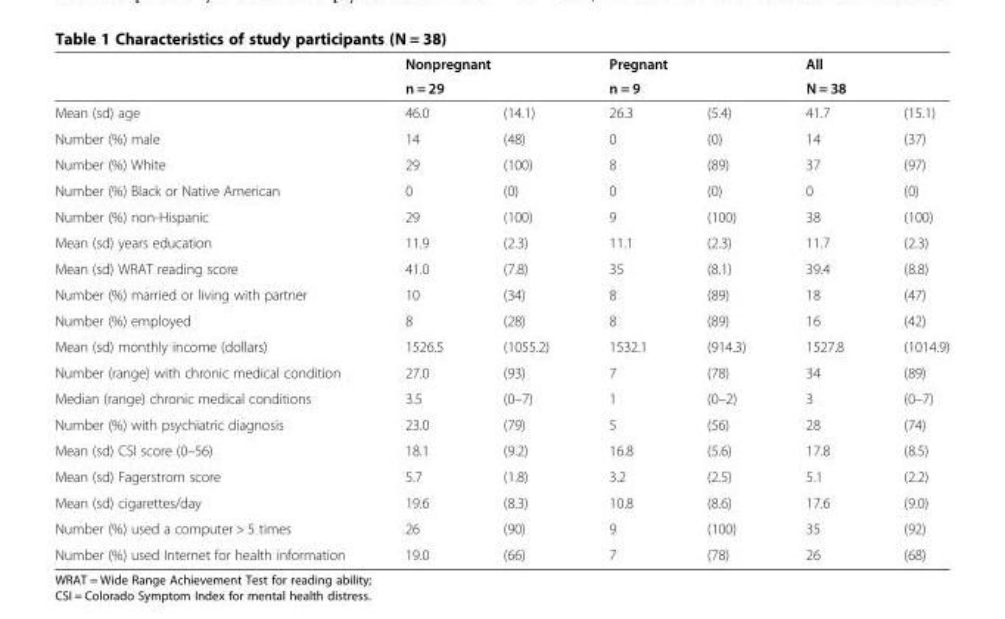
<table><thead><tr><td rowspan="3">Mean (sd) age</td><td rowspan="2" colspan="2">Nonpregnant n = 29</td><td rowspan="2" colspan="2">Pregnant n = 9</td><td>All</td><td></td></tr><tr><td colspan="2">N = 38</td></tr><tr><td>46.0</td><td>(14.1)</td><td>26.3</td><td>(5.4)</td><td>41.7</td><td>(15.1)</td></tr></thead><tbody><tr><td>Number (%) male</td><td>14</td><td>(48)</td><td>0</td><td>(0)</td><td>14</td><td>(37)</td></tr><tr><td>Number (%) White</td><td>29</td><td>(100)</td><td>8</td><td>(89)</td><td>37</td><td>(97)</td></tr><tr><td>Number (%) Black or Native American</td><td>0</td><td>(0)</td><td>0</td><td>(0)</td><td>0</td><td>(0)</td></tr><tr><td>Number (%) non-Hispanic</td><td>29</td><td>(100)</td><td>9</td><td>(100)</td><td>38</td><td>(100)</td></tr><tr><td>Mean (sd) years education</td><td>11.9</td><td>(2.3)</td><td>11.1</td><td>(2.3)</td><td>11.7</td><td>(2.3)</td></tr><tr><td>Mean (sd) WRAT reading score</td><td>41.0</td><td>(7.8)</td><td>35</td><td>(8.1)</td><td>39.4</td><td>(8.8)</td></tr><tr><td>Number (%) married or living with partner</td><td>10</td><td>(34)</td><td>8</td><td>(89)</td><td>18</td><td>(47)</td></tr><tr><td>Number (%) employed</td><td>8</td><td>(28)</td><td>8</td><td>(89)</td><td>16</td><td>(42)</td></tr><tr><td>Mean (sd) monthly income (dollars)</td><td>1526.5</td><td>(1055.2)</td><td>1532.1</td><td>(914.3)</td><td>1527.8</td><td>(1014.9)</td></tr><tr><td>Number (range) with chronic medical condition</td><td>27.0</td><td>(93)</td><td>7</td><td>(78)</td><td>34</td><td>(89)</td></tr><tr><td>Median (range) chronic medical conditions</td><td>3.5</td><td>(0–7)</td><td>1</td><td>(0–2)</td><td>3</td><td>(0–7)</td></tr><tr><td>Number (%) with psychiatric diagnosis</td><td>23.0</td><td>(79)</td><td>5</td><td>(56)</td><td>28</td><td>(74)</td></tr><tr><td>Mean (sd) CSI score (0–56)</td><td>18.1</td><td>(9.2)</td><td>16.8</td><td>(5.6)</td><td>17.8</td><td>(8.5)</td></tr><tr><td>Mean (sd) Fagerstrom score</td><td>5.7</td><td>(1.8)</td><td>3.2</td><td>(2.5)</td><td>5.1</td><td>(2.2)</td></tr><tr><td>Mean (sd) cigarettes/day</td><td>19.6</td><td>(8.3)</td><td>10.8</td><td>(8.6)</td><td>17.6</td><td>(9.0)</td></tr><tr><td>Number (%) used a computer &gt; 5 times</td><td>26</td><td>(90)</td><td>9</td><td>(100)</td><td>35</td><td>(92)</td></tr><tr><td>Number (%) used Internet for health information</td><td>19.0</td><td>(66)</td><td>7</td><td>(78)</td><td>26</td><td>(68)</td></tr></tbody></table>